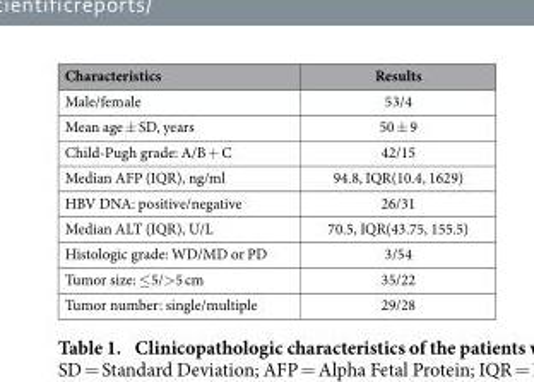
<table><thead><tr><td>Characteristics</td><td>Results</td></tr></thead><tbody><tr><td>Male/female</td><td>53/4</td></tr><tr><td>Mean age ± SD, years</td><td>50 ± 9</td></tr><tr><td>Child-Pugh grade: A/B + C</td><td>42/15</td></tr><tr><td>Median AFP (IQR), ng/ml</td><td>94.8, IQR(10.4, 1629)</td></tr><tr><td>HBV DNA: positive/negative</td><td>26/31</td></tr><tr><td>Median ALT (IQR), U/L</td><td>70.5, IQR(43.75, 155.5)</td></tr><tr><td>Histologic grade: WD/MD or PD</td><td>3/54</td></tr><tr><td>Tumor size: ≤ 5/&gt; 5 cm</td><td>35/22</td></tr><tr><td>Tumor number: single/multiple</td><td>29/28</td></tr></tbody></table>